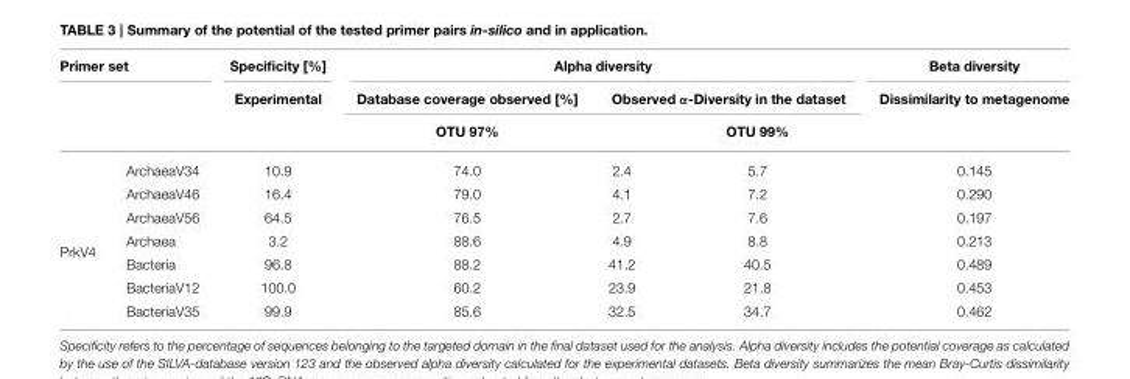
<table><thead><tr><td colspan="2">Primer set</td><td rowspan="3">Specificity [%] Experimental</td><td colspan="3">Alpha diversity</td><td rowspan="3">Beta diversity Dissimilarity to metagenome</td></tr><tr><td rowspan="2"></td><td rowspan="2"></td><td rowspan="2">Database coverage observed [%] OTU 97%</td><td colspan="2">Observed α-Diversity in the dataset</td></tr><tr><td></td><td>OTU 99%</td></tr></thead><tbody><tr><td></td><td>ArchaeaV34</td><td>10.9</td><td>74.0</td><td>2.4</td><td>5.7</td><td>0.145</td></tr><tr><td></td><td>ArchaeaV46</td><td>16.4</td><td>79.0</td><td>4.1</td><td>7.2</td><td>0.290</td></tr><tr><td></td><td>ArchaeaV56</td><td>64.5</td><td>76.5</td><td>2.7</td><td>7.6</td><td>0.197</td></tr><tr><td rowspan="4">PrkV4</td><td>Archaea</td><td>3.2</td><td>88.6</td><td>4.9</td><td>8.8</td><td>0.213</td></tr><tr><td>Bacteria</td><td>96.8</td><td>88.2</td><td>41.2</td><td>40.5</td><td>0.489</td></tr><tr><td>BacteriaV12</td><td>100.0</td><td>60.2</td><td>23.9</td><td>21.8</td><td>0.453</td></tr><tr><td>BacteriaV35</td><td>99.9</td><td>85.6</td><td>32.5</td><td>34.7</td><td>0.462</td></tr></tbody></table>